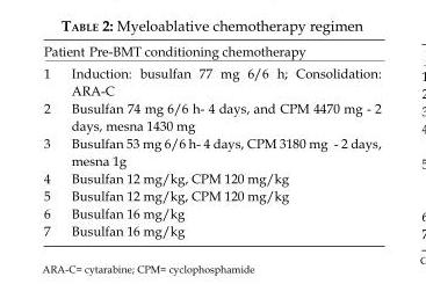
<table><thead><tr><td colspan="2">Patient Pre-BMT conditioning chemotherapy</td></tr><tr><td>1</td><td>Induction: busulfan 77 mg 6/6 h; Consolidation: ARA-C</td></tr></thead><tbody><tr><td>2</td><td>Busulfan 74 mg 6/6 h- 4 days, and CPM 4470 mg - 2 days, mesna 1430 mg</td></tr><tr><td>3</td><td>Busulfan 53 mg 6/6 h- 4 days, CPM 3180 mg - 2 days, mesna 1g</td></tr><tr><td>4</td><td>Busulfan 12 mg/kg, CPM 120 mg/kg</td></tr><tr><td>5</td><td>Busulfan 12 mg/kg, CPM 120 mg/kg</td></tr><tr><td>6</td><td>Busulfan 16 mg/kg</td></tr><tr><td>7</td><td>Busulfan 16 mg/kg</td></tr></tbody></table>